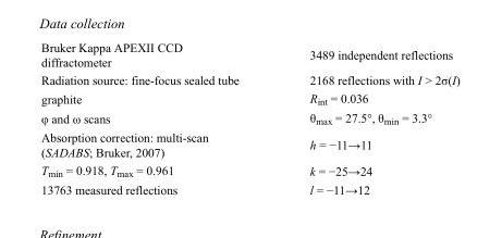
<table><tbody><tr><td>Bruker Kappa APEXII CCD diffractometer</td><td>3489 independent reflections</td></tr><tr><td>Radiation source: fine-focus sealed tube</td><td>2168 reflections with I &gt; 2σ(I)</td></tr><tr><td>graphite</td><td>R<sub>int</sub> = 0.036</td></tr><tr><td>φ and ω scans</td><td>θ<sub>max</sub> = 27.5°, θ<sub>min</sub> = 3.3°</td></tr><tr><td>Absorption correction: multi-scan (SADABS; Bruker, 2007)</td><td>h = −11→11</td></tr><tr><td>T<sub>min</sub> = 0.918, T<sub>max</sub> = 0.961</td><td>k = −25→24</td></tr><tr><td>13763 measured reflections</td><td>l = −11→12</td></tr></tbody></table>